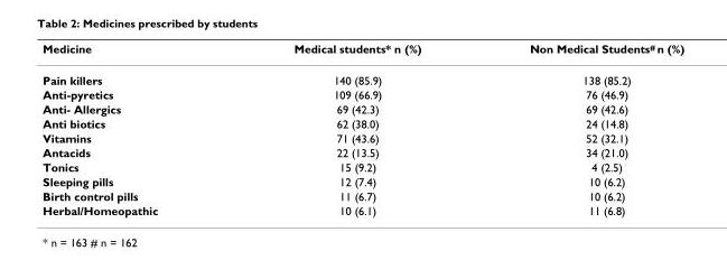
<table><thead><tr><td>Medicine</td><td>Medical students* n (%)</td><td>Non Medical Students# n (%)</td></tr></thead><tbody><tr><td>Pain killers</td><td>140 (85.9)</td><td>138 (85.2)</td></tr><tr><td>Anti-pyretics</td><td>109 (66.9)</td><td>76 (46.9)</td></tr><tr><td>Anti- Allergics</td><td>69 (42.3)</td><td>69 (42.6)</td></tr><tr><td>Anti biotics</td><td>62 (38.0)</td><td>24 (14.8)</td></tr><tr><td>Vitamins</td><td>71 (43.6)</td><td>52 (32.1)</td></tr><tr><td>Antacids</td><td>22 (13.5)</td><td>34 (21.0)</td></tr><tr><td>Tonics</td><td>15 (9.2)</td><td>4 (2.5)</td></tr><tr><td>Sleeping pills</td><td>12 (7.4)</td><td>10 (6.2)</td></tr><tr><td>Birth control pills</td><td>11 (6.7)</td><td>10 (6.2)</td></tr><tr><td>Herbal/Homeopathic</td><td>10 (6.1)</td><td>11 (6.8)</td></tr></tbody></table>